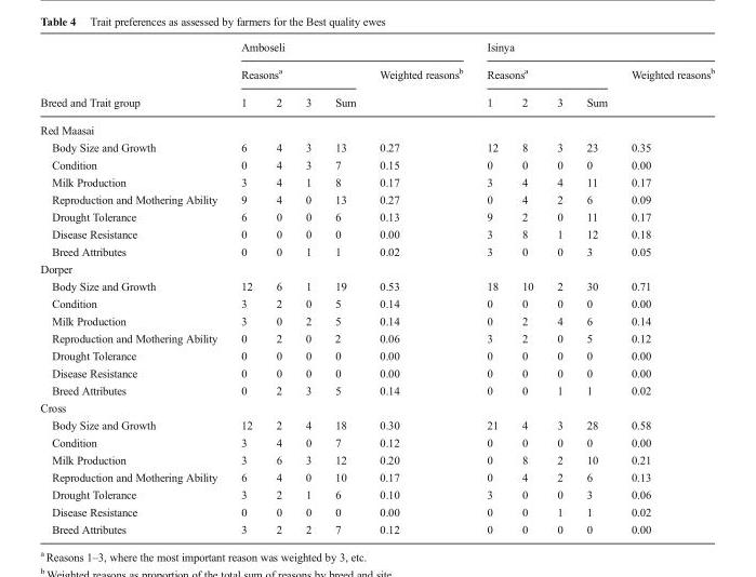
<table><thead><tr><td rowspan="3">Breed and Trait group</td><td colspan="5">Amboseli</td><td colspan="5">Isinya</td></tr><tr><td colspan="4">Reasons<sup>a</sup></td><td rowspan="2">Weighted reasons<sup>b</sup></td><td colspan="4">Reasons<sup>a</sup></td><td rowspan="2">Weighted reasons<sup>b</sup></td></tr><tr><td>1</td><td>2</td><td>3</td><td>Sum</td><td>1</td><td>2</td><td>3</td><td>Sum</td></tr></thead><tbody><tr><td colspan="11">Red Maasai</td></tr><tr><td>Body Size and Growth</td><td>6</td><td>4</td><td>3</td><td>13</td><td>0.27</td><td>12</td><td>8</td><td>3</td><td>23</td><td>0.35</td></tr><tr><td>Condition</td><td>0</td><td>4</td><td>3</td><td>7</td><td>0.15</td><td>0</td><td>0</td><td>0</td><td>0</td><td>0.00</td></tr><tr><td>Milk Production</td><td>3</td><td>4</td><td>1</td><td>8</td><td>0.17</td><td>3</td><td>4</td><td>4</td><td>11</td><td>0.17</td></tr><tr><td>Reproduction and Mothering Ability</td><td>9</td><td>4</td><td>0</td><td>13</td><td>0.27</td><td>0</td><td>4</td><td>2</td><td>6</td><td>0.09</td></tr><tr><td>Drought Tolerance</td><td>6</td><td>0</td><td>0</td><td>6</td><td>0.13</td><td>9</td><td>2</td><td>0</td><td>11</td><td>0.17</td></tr><tr><td>Disease Resistance</td><td>0</td><td>0</td><td>0</td><td>0</td><td>0.00</td><td>3</td><td>8</td><td>1</td><td>12</td><td>0.18</td></tr><tr><td>Breed Attributes</td><td>0</td><td>0</td><td>1</td><td>1</td><td>0.02</td><td>3</td><td>0</td><td>0</td><td>3</td><td>0.05</td></tr><tr><td colspan="11">Dorper</td></tr><tr><td>Body Size and Growth</td><td>12</td><td>6</td><td>1</td><td>19</td><td>0.53</td><td>18</td><td>10</td><td>2</td><td>30</td><td>0.71</td></tr><tr><td>Condition</td><td>3</td><td>2</td><td>0</td><td>5</td><td>0.14</td><td>0</td><td>0</td><td>0</td><td>0</td><td>0.00</td></tr><tr><td>Milk Production</td><td>3</td><td>0</td><td>2</td><td>5</td><td>0.14</td><td>0</td><td>2</td><td>4</td><td>6</td><td>0.14</td></tr><tr><td>Reproduction and Mothering Ability</td><td>0</td><td>2</td><td>0</td><td>2</td><td>0.06</td><td>3</td><td>2</td><td>0</td><td>5</td><td>0.12</td></tr><tr><td>Drought Tolerance</td><td>0</td><td>0</td><td>0</td><td>0</td><td>0.00</td><td>0</td><td>0</td><td>0</td><td>0</td><td>0.00</td></tr><tr><td>Disease Resistance</td><td>0</td><td>0</td><td>0</td><td>0</td><td>0.00</td><td>0</td><td>0</td><td>0</td><td>0</td><td>0.00</td></tr><tr><td>Breed Attributes</td><td>0</td><td>2</td><td>3</td><td>5</td><td>0.14</td><td>0</td><td>0</td><td>1</td><td>1</td><td>0.02</td></tr><tr><td colspan="11">Cross</td></tr><tr><td>Body Size and Growth</td><td>12</td><td>2</td><td>4</td><td>18</td><td>0.30</td><td>21</td><td>4</td><td>3</td><td>28</td><td>0.58</td></tr><tr><td>Condition</td><td>3</td><td>4</td><td>0</td><td>7</td><td>0.12</td><td>0</td><td>0</td><td>0</td><td>0</td><td>0.00</td></tr><tr><td>Milk Production</td><td>3</td><td>6</td><td>3</td><td>12</td><td>0.20</td><td>0</td><td>8</td><td>2</td><td>10</td><td>0.21</td></tr><tr><td>Reproduction and Mothering Ability</td><td>6</td><td>4</td><td>0</td><td>10</td><td>0.17</td><td>0</td><td>4</td><td>2</td><td>6</td><td>0.13</td></tr><tr><td>Drought Tolerance</td><td>3</td><td>2</td><td>1</td><td>6</td><td>0.10</td><td>3</td><td>0</td><td>0</td><td>3</td><td>0.06</td></tr><tr><td>Disease Resistance</td><td>0</td><td>0</td><td>0</td><td>0</td><td>0.00</td><td>0</td><td>0</td><td>1</td><td>1</td><td>0.02</td></tr><tr><td>Breed Attributes</td><td>3</td><td>2</td><td>2</td><td>7</td><td>0.12</td><td>0</td><td>0</td><td>0</td><td>0</td><td>0.00</td></tr></tbody></table>